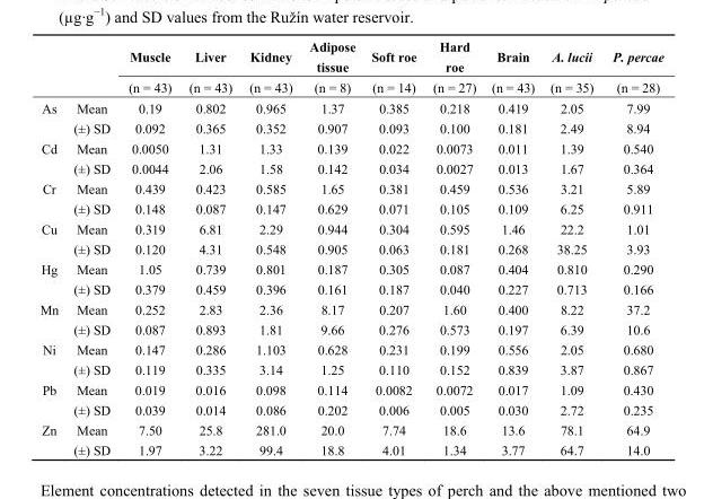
<table><thead><tr><td rowspan="2"></td><td rowspan="2"></td><td rowspan="2">Muscle (n = 43)</td><td rowspan="2">Liver (n = 43)</td><td rowspan="2">Kidney (n = 43)</td><td rowspan="2">Adipose tissue (n = 8)</td><td rowspan="2">Soft roe (n = 14)</td><td rowspan="2">Hard roe (n = 27)</td><td rowspan="2">Brain (n = 43)</td><td rowspan="2">A. lucii (n = 35)</td><td rowspan="2">P. percae (n = 28)</td></tr><tr></tr></thead><tbody><tr><td rowspan="2">As</td><td>Mean</td><td>0.19</td><td>0.802</td><td>0.965</td><td>1.37</td><td>0.385</td><td>0.218</td><td>0.419</td><td>2.05</td><td>7.99</td></tr><tr><td>(±) SD</td><td>0.092</td><td>0.365</td><td>0.352</td><td>0.907</td><td>0.093</td><td>0.100</td><td>0.181</td><td>2.49</td><td>8.94</td></tr><tr><td rowspan="2">Cd</td><td>Mean</td><td>0.0050</td><td>1.31</td><td>1.33</td><td>0.139</td><td>0.022</td><td>0.0073</td><td>0.011</td><td>1.39</td><td>0.540</td></tr><tr><td>(±) SD</td><td>0.0044</td><td>2.06</td><td>1.58</td><td>0.142</td><td>0.034</td><td>0.0027</td><td>0.013</td><td>1.67</td><td>0.364</td></tr><tr><td rowspan="2">Cr</td><td>Mean</td><td>0.439</td><td>0.423</td><td>0.585</td><td>1.65</td><td>0.381</td><td>0.459</td><td>0.536</td><td>3.21</td><td>5.89</td></tr><tr><td>(±) SD</td><td>0.148</td><td>0.087</td><td>0.147</td><td>0.629</td><td>0.071</td><td>0.105</td><td>0.109</td><td>6.25</td><td>0.911</td></tr><tr><td rowspan="2">Cu</td><td>Mean</td><td>0.319</td><td>6.81</td><td>2.29</td><td>0.944</td><td>0.304</td><td>0.595</td><td>1.46</td><td>22.2</td><td>1.01</td></tr><tr><td>(±) SD</td><td>0.120</td><td>4.31</td><td>0.548</td><td>0.905</td><td>0.063</td><td>0.181</td><td>0.268</td><td>38.25</td><td>3.93</td></tr><tr><td rowspan="2">Hg</td><td>Mean</td><td>1.05</td><td>0.739</td><td>0.801</td><td>0.187</td><td>0.305</td><td>0.087</td><td>0.404</td><td>0.810</td><td>0.290</td></tr><tr><td>(±) SD</td><td>0.379</td><td>0.459</td><td>0.396</td><td>0.161</td><td>0.187</td><td>0.040</td><td>0.227</td><td>0.713</td><td>0.166</td></tr><tr><td rowspan="2">Mn</td><td>Mean</td><td>0.252</td><td>2.83</td><td>2.36</td><td>8.17</td><td>0.207</td><td>1.60</td><td>0.400</td><td>8.22</td><td>37.2</td></tr><tr><td>(±) SD</td><td>0.087</td><td>0.893</td><td>1.81</td><td>9.66</td><td>0.276</td><td>0.573</td><td>0.197</td><td>6.39</td><td>10.6</td></tr><tr><td rowspan="2">Ni</td><td>Mean</td><td>0.147</td><td>0.286</td><td>1.103</td><td>0.628</td><td>0.231</td><td>0.199</td><td>0.556</td><td>2.05</td><td>0.680</td></tr><tr><td>(±) SD</td><td>0.119</td><td>0.335</td><td>3.14</td><td>1.25</td><td>0.110</td><td>0.152</td><td>0.839</td><td>3.87</td><td>0.867</td></tr><tr><td rowspan="2">Pb</td><td>Mean</td><td>0.019</td><td>0.016</td><td>0.098</td><td>0.114</td><td>0.0082</td><td>0.0072</td><td>0.017</td><td>1.09</td><td>0.430</td></tr><tr><td>(±) SD</td><td>0.039</td><td>0.014</td><td>0.086</td><td>0.202</td><td>0.006</td><td>0.005</td><td>0.030</td><td>2.72</td><td>0.235</td></tr><tr><td rowspan="2">Zn</td><td>Mean</td><td>7.50</td><td>25.8</td><td>281.0</td><td>20.0</td><td>7.74</td><td>18.6</td><td>13.6</td><td>78.1</td><td>64.9</td></tr><tr><td>(±) SD</td><td>1.97</td><td>3.22</td><td>99.4</td><td>18.8</td><td>4.01</td><td>1.34</td><td>3.77</td><td>64.7</td><td>14.0</td></tr></tbody></table>